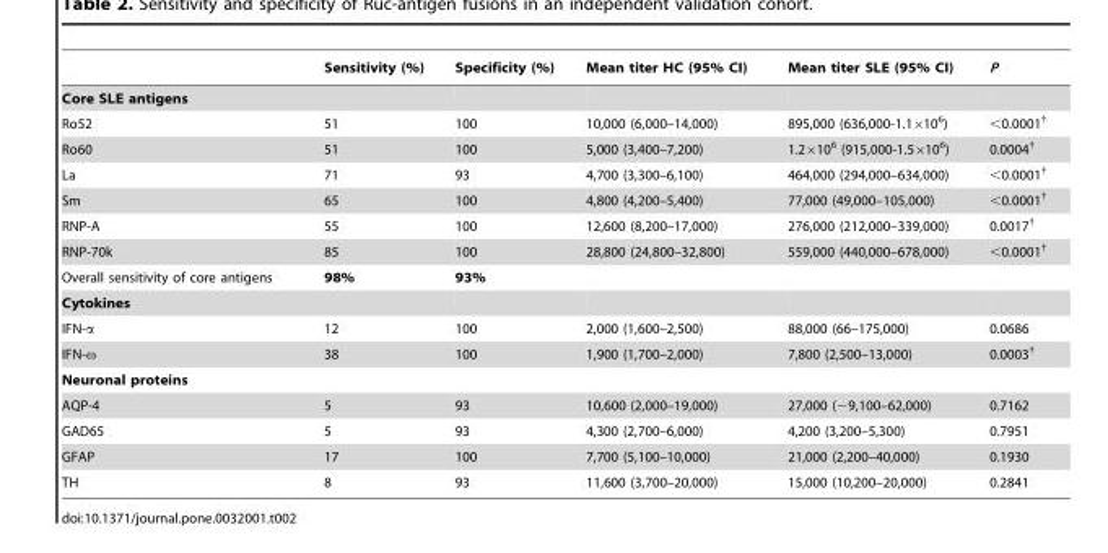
<table><thead><tr><td></td><td>Sensitivity (%)</td><td>Specificity (%)</td><td>Mean titer HC (95% CI)</td><td>Mean titer SLE (95% CI)</td><td>P</td></tr></thead><tbody><tr><td colspan="6">Core SLE antigens</td></tr><tr><td>Ro52</td><td>51</td><td>100</td><td>10,000 (6,000–14,000)</td><td>895,000 (636,000-1.1×10<sup>6</sup>)</td><td>&lt;0.0001<sup>†</sup></td></tr><tr><td>Ro60</td><td>51</td><td>100</td><td>5,000 (3,400–7,200)</td><td>1.2×10<sup>6</sup> (915,000-1.5×10<sup>6</sup>)</td><td>0.0004<sup>†</sup></td></tr><tr><td>La</td><td>71</td><td>93</td><td>4,700 (3,300–6,100)</td><td>464,000 (294,000–634,000)</td><td>&lt;0.0001<sup>†</sup></td></tr><tr><td>Sm</td><td>65</td><td>100</td><td>4,800 (4,200–5,400)</td><td>77,000 (49,000–105,000)</td><td>&lt;0.0001<sup>†</sup></td></tr><tr><td>RNP-A</td><td>55</td><td>100</td><td>12,600 (8,200–17,000)</td><td>276,000 (212,000–339,000)</td><td>0.0017<sup>†</sup></td></tr><tr><td>RNP-70k</td><td>85</td><td>100</td><td>28,800 (24,800–32,800)</td><td>559,000 (440,000–678,000)</td><td>&lt;0.0001<sup>†</sup></td></tr><tr><td>Overall sensitivity of core antigens</td><td>98%</td><td>93%</td><td></td><td></td><td></td></tr><tr><td colspan="6">Cytokines</td></tr><tr><td>IFN-α</td><td>12</td><td>100</td><td>2,000 (1,600–2,500)</td><td>88,000 (66–175,000)</td><td>0.0686</td></tr><tr><td>IFN-ω</td><td>38</td><td>100</td><td>1,900 (1,700–2,000)</td><td>7,800 (2,500–13,000)</td><td>0.0003<sup>†</sup></td></tr><tr><td colspan="6">Neuronal proteins</td></tr><tr><td>AQP-4</td><td>5</td><td>93</td><td>10,600 (2,000–19,000)</td><td>27,000 (−9,100–62,000)</td><td>0.7162</td></tr><tr><td>GAD65</td><td>5</td><td>93</td><td>4,300 (2,700–6,000)</td><td>4,200 (3,200–5,300)</td><td>0.7951</td></tr><tr><td>GFAP</td><td>17</td><td>100</td><td>7,700 (5,100–10,000)</td><td>21,000 (2,200–40,000)</td><td>0.1930</td></tr><tr><td>TH</td><td>8</td><td>93</td><td>11,600 (3,700–20,000)</td><td>15,000 (10,200–20,000)</td><td>0.2841</td></tr></tbody></table>